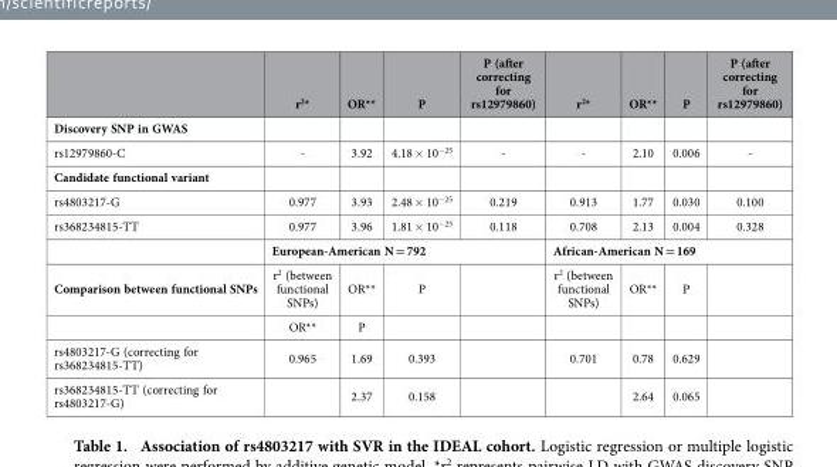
<table><thead><tr><td></td><td>r<sup>2</sup>*</td><td>OR**</td><td>P</td><td>P (after correcting for rs12979860)</td><td>r<sup>2</sup>*</td><td>OR**</td><td>P</td><td>P (after correcting for rs12979860)</td></tr></thead><tbody><tr><td colspan="9">Discovery SNP in GWAS</td></tr><tr><td>rs12979860-C</td><td>-</td><td>3.92</td><td>4.18 × 10<sup>−25</sup></td><td>-</td><td>-</td><td>2.10</td><td>0.006</td><td>-</td></tr><tr><td colspan="9">Candidate functional variant</td></tr><tr><td>rs4803217-G</td><td>0.977</td><td>3.93</td><td>2.48 × 10<sup>−25</sup></td><td>0.219</td><td>0.913</td><td>1.77</td><td>0.030</td><td>0.100</td></tr><tr><td rowspan="2">rs368234815-TT</td><td>0.977</td><td>3.96</td><td>1.81 × 10<sup>−25</sup></td><td>0.118</td><td>0.708</td><td>2.13</td><td>0.004</td><td>0.328</td></tr><tr><td colspan="4">European-American N = 792</td><td colspan="4">African-American N = 169</td></tr><tr><td rowspan="2">Comparison between functional SNPs</td><td>r<sup>2</sup> (between functional SNPs)</td><td>OR**</td><td>P</td><td></td><td>r<sup>2</sup> (between functional SNPs)</td><td>OR**</td><td>P</td><td></td></tr><tr><td>OR**</td><td>P</td><td></td><td></td><td></td><td></td><td></td><td></td></tr><tr><td>rs4803217-G (correcting for rs368234815-TT)</td><td>0.965</td><td>1.69</td><td>0.393</td><td></td><td>0.701</td><td>0.78</td><td>0.629</td><td></td></tr><tr><td>rs368234815-TT (correcting for rs4803217-G)</td><td></td><td>2.37</td><td>0.158</td><td></td><td></td><td>2.64</td><td>0.065</td><td></td></tr></tbody></table>